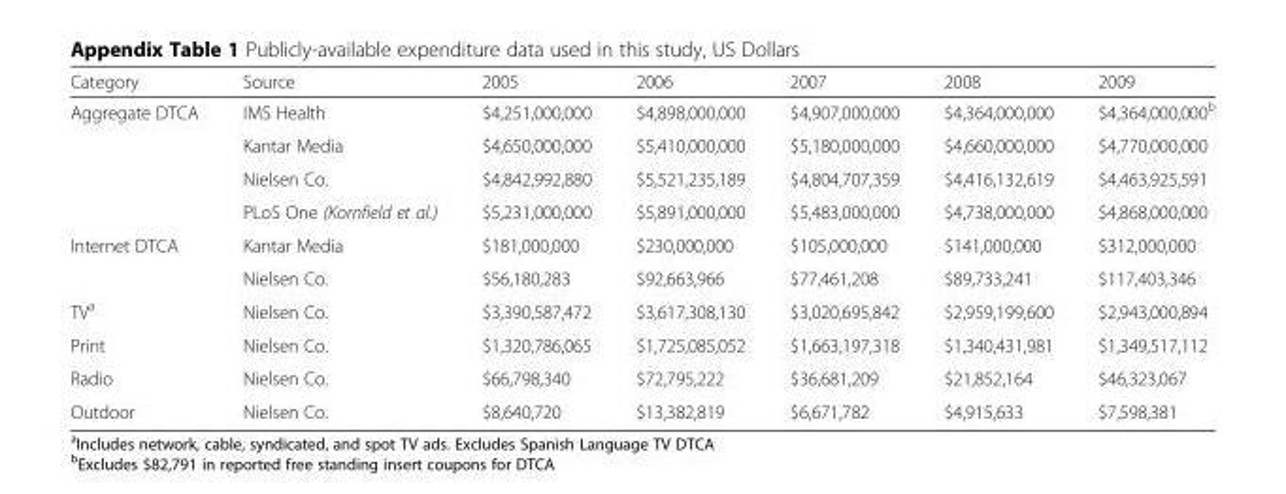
<table><thead><tr><td>Category</td><td>Source</td><td>2005</td><td>2006</td><td>2007</td><td>2008</td><td>2009</td></tr></thead><tbody><tr><td rowspan="4">Aggregate DTCA</td><td>IMS Health</td><td>$4,251,000,000</td><td>$4,898,000,000</td><td>$4,907,000,000</td><td>$4,364,000,000</td><td>$4,364,000,000<sup>b</sup></td></tr><tr><td>Kantar Media</td><td>$4,650,000,000</td><td>$5,410,000,000</td><td>$5,180,000,000</td><td>$4,660,000,000</td><td>$4,770,000,000</td></tr><tr><td>Nielsen Co.</td><td>$4,842,992,880</td><td>$5,521,235,189</td><td>$4,804,707,359</td><td>$4,416,132,619</td><td>$4,463,925,591</td></tr><tr><td>PLoS One (Kornfield et al.)</td><td>$5,231,000,000</td><td>$5,891,000,000</td><td>$5,483,000,000</td><td>$4,738,000,000</td><td>$4,868,000,000</td></tr><tr><td rowspan="2">Internet DTCA</td><td>Kantar Media</td><td>$181,000,000</td><td>$230,000,000</td><td>$105,000,000</td><td>$141,000,000</td><td>$312,000,000</td></tr><tr><td>Nielsen Co.</td><td>$56,180,283</td><td>$92,663,966</td><td>$77,461,208</td><td>$89,733,241</td><td>$117,403,346</td></tr><tr><td>TV<sup>a</sup></td><td>Nielsen Co.</td><td>$3,390,587,472</td><td>$3,617,308,130</td><td>$3,020,695,842</td><td>$2,959,199,600</td><td>$2,943,000,894</td></tr><tr><td>Print</td><td>Nielsen Co.</td><td>$1,320,786,065</td><td>$1,725,085,052</td><td>$1,663,197,318</td><td>$1,340,431,981</td><td>$1,349,517,112</td></tr><tr><td>Radio</td><td>Nielsen Co.</td><td>$66,798,340</td><td>$72,795,222</td><td>$36,681,209</td><td>$21,852,164</td><td>$46,323,067</td></tr><tr><td>Outdoor</td><td>Nielsen Co.</td><td>$8,640,720</td><td>$13,382,819</td><td>$6,671,782</td><td>$4,915,633</td><td>$7,598,381</td></tr></tbody></table>